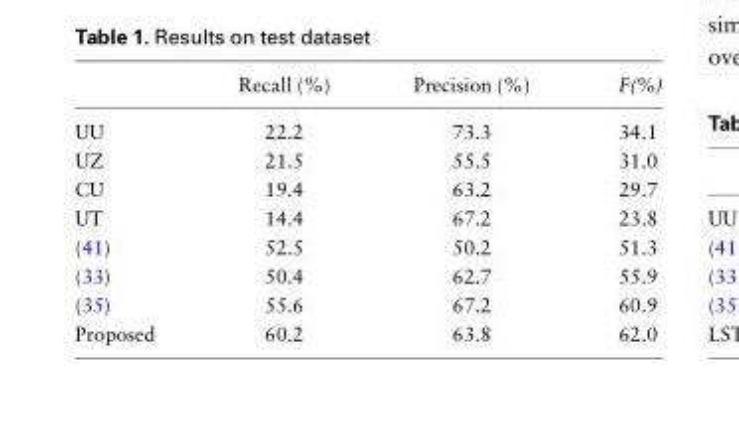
<table><thead><tr><td></td><td>Recall (%)</td><td>Precision (%)</td><td>F(%)</td></tr></thead><tbody><tr><td>UU</td><td>22.2</td><td>73.3</td><td>34.1</td></tr><tr><td>UZ</td><td>21.5</td><td>55.5</td><td>31.0</td></tr><tr><td>CU</td><td>19.4</td><td>63.2</td><td>29.7</td></tr><tr><td>UT</td><td>14.4</td><td>67.2</td><td>23.8</td></tr><tr><td>(41)</td><td>52.5</td><td>50.2</td><td>51.3</td></tr><tr><td>(33)</td><td>50.4</td><td>62.7</td><td>55.9</td></tr><tr><td>(35)</td><td>55.6</td><td>67.2</td><td>60.9</td></tr><tr><td>Proposed</td><td>60.2</td><td>63.8</td><td>62.0</td></tr></tbody></table>